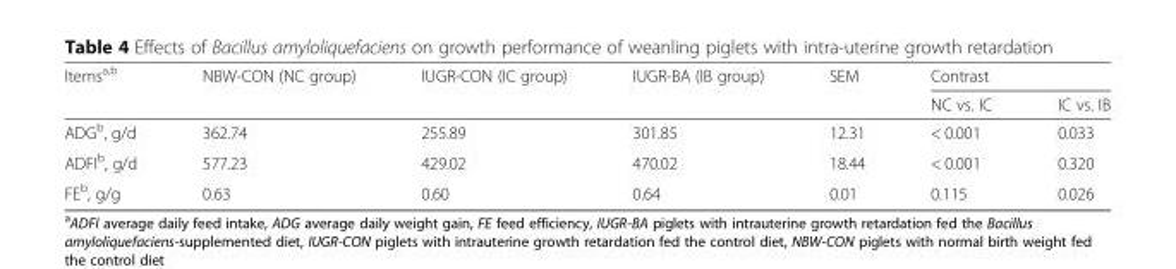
<table><thead><tr><td rowspan="2">Items<sup>a,b</sup></td><td rowspan="2">NBW-CON (NC group)</td><td rowspan="2">IUGR-CON (IC group)</td><td rowspan="2">IUGR-BA (IB group)</td><td rowspan="2">SEM</td><td colspan="2">Contrast</td></tr><tr><td>NC vs. IC</td><td>IC vs. IB</td></tr></thead><tbody><tr><td>ADG<sup>b</sup>, g/d</td><td>362.74</td><td>255.89</td><td>301.85</td><td>12.31</td><td>&lt; 0.001</td><td>0.033</td></tr><tr><td>ADFI<sup>b</sup>, g/d</td><td>577.23</td><td>429.02</td><td>470.02</td><td>18.44</td><td>&lt; 0.001</td><td>0.320</td></tr><tr><td>FE<sup>b</sup>, g/g</td><td>0.63</td><td>0.60</td><td>0.64</td><td>0.01</td><td>0.115</td><td>0.026</td></tr></tbody></table>